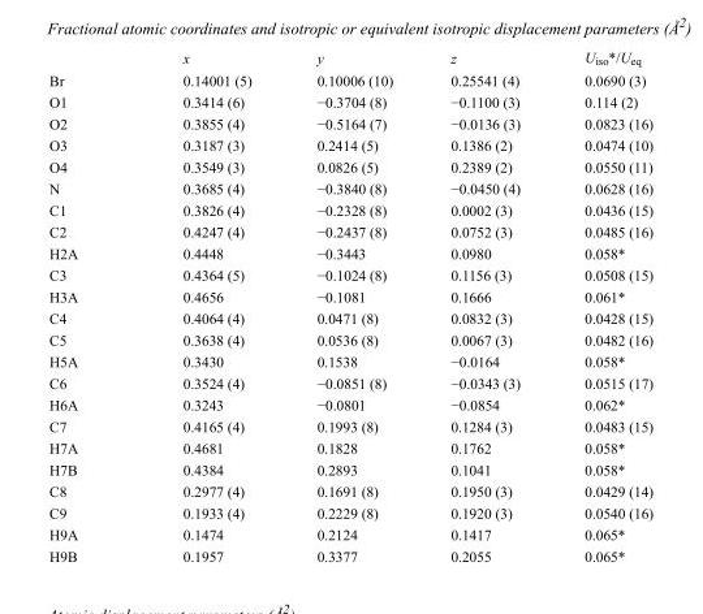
<table><thead><tr><td></td><td>x</td><td>y</td><td>z</td><td>U<sub>iso</sub>*/U<sub>eq</sub></td></tr></thead><tbody><tr><td>Br</td><td>0.14001 (5)</td><td>0.10006 (10)</td><td>0.25541 (4)</td><td>0.0690 (3)</td></tr><tr><td>O1</td><td>0.3414 (6)</td><td>−0.3704 (8)</td><td>−0.1100 (3)</td><td>0.114 (2)</td></tr><tr><td>O2</td><td>0.3855 (4)</td><td>−0.5164 (7)</td><td>−0.0136 (3)</td><td>0.0823 (16)</td></tr><tr><td>O3</td><td>0.3187 (3)</td><td>0.2414 (5)</td><td>0.1386 (2)</td><td>0.0474 (10)</td></tr><tr><td>O4</td><td>0.3549 (3)</td><td>0.0826 (5)</td><td>0.2389 (2)</td><td>0.0550 (11)</td></tr><tr><td>N</td><td>0.3685 (4)</td><td>−0.3840 (8)</td><td>−0.0450 (4)</td><td>0.0628 (16)</td></tr><tr><td>C1</td><td>0.3826 (4)</td><td>−0.2328 (8)</td><td>0.0002 (3)</td><td>0.0436 (15)</td></tr><tr><td>C2</td><td>0.4247 (4)</td><td>−0.2437 (8)</td><td>0.0752 (3)</td><td>0.0485 (16)</td></tr><tr><td>H2A</td><td>0.4448</td><td>−0.3443</td><td>0.0980</td><td>0.058*</td></tr><tr><td>C3</td><td>0.4364 (5)</td><td>−0.1024 (8)</td><td>0.1156 (3)</td><td>0.0508 (15)</td></tr><tr><td>H3A</td><td>0.4656</td><td>−0.1081</td><td>0.1666</td><td>0.061*</td></tr><tr><td>C4</td><td>0.4064 (4)</td><td>0.0471 (8)</td><td>0.0832 (3)</td><td>0.0428 (15)</td></tr><tr><td>C5</td><td>0.3638 (4)</td><td>0.0536 (8)</td><td>0.0067 (3)</td><td>0.0482 (16)</td></tr><tr><td>H5A</td><td>0.3430</td><td>0.1538</td><td>−0.0164</td><td>0.058*</td></tr><tr><td>C6</td><td>0.3524 (4)</td><td>−0.0851 (8)</td><td>−0.0343 (3)</td><td>0.0515 (17)</td></tr><tr><td>H6A</td><td>0.3243</td><td>−0.0801</td><td>−0.0854</td><td>0.062*</td></tr><tr><td>C7</td><td>0.4165 (4)</td><td>0.1993 (8)</td><td>0.1284 (3)</td><td>0.0483 (15)</td></tr><tr><td>H7A</td><td>0.4681</td><td>0.1828</td><td>0.1762</td><td>0.058*</td></tr><tr><td>H7B</td><td>0.4384</td><td>0.2893</td><td>0.1041</td><td>0.058*</td></tr><tr><td>C8</td><td>0.2977 (4)</td><td>0.1691 (8)</td><td>0.1950 (3)</td><td>0.0429 (14)</td></tr><tr><td>C9</td><td>0.1933 (4)</td><td>0.2229 (8)</td><td>0.1920 (3)</td><td>0.0540 (16)</td></tr><tr><td>H9A</td><td>0.1474</td><td>0.2124</td><td>0.1417</td><td>0.065*</td></tr><tr><td>H9B</td><td>0.1957</td><td>0.3377</td><td>0.2055</td><td>0.065*</td></tr></tbody></table>